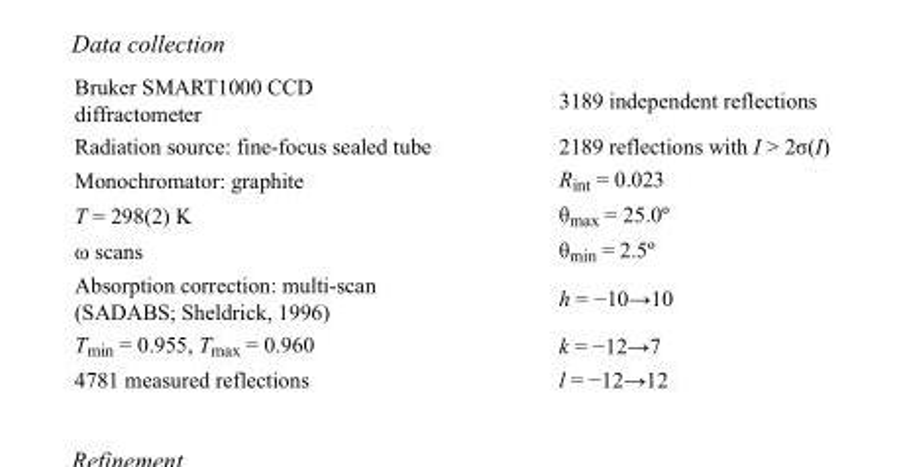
<table><tbody><tr><td>Bruker SMART1000 CCD diffractometer</td><td>3189 independent reflections</td></tr><tr><td>Radiation source: fine-focus sealed tube</td><td>2189 reflections with I &gt; 2σ(I)</td></tr><tr><td>Monochromator: graphite</td><td>R<sub>int</sub> = 0.023</td></tr><tr><td>T = 298(2) K</td><td>θ<sub>max</sub> = 25.0º</td></tr><tr><td>ω scans</td><td>θ<sub>min</sub> = 2.5º</td></tr><tr><td>Absorption correction: multi-scan (SADABS; Sheldrick, 1996)</td><td>h = −10→10</td></tr><tr><td>T<sub>min</sub> = 0.955, T<sub>max</sub> = 0.960</td><td>k = −12→7</td></tr><tr><td>4781 measured reflections</td><td>l = −12→12</td></tr></tbody></table>